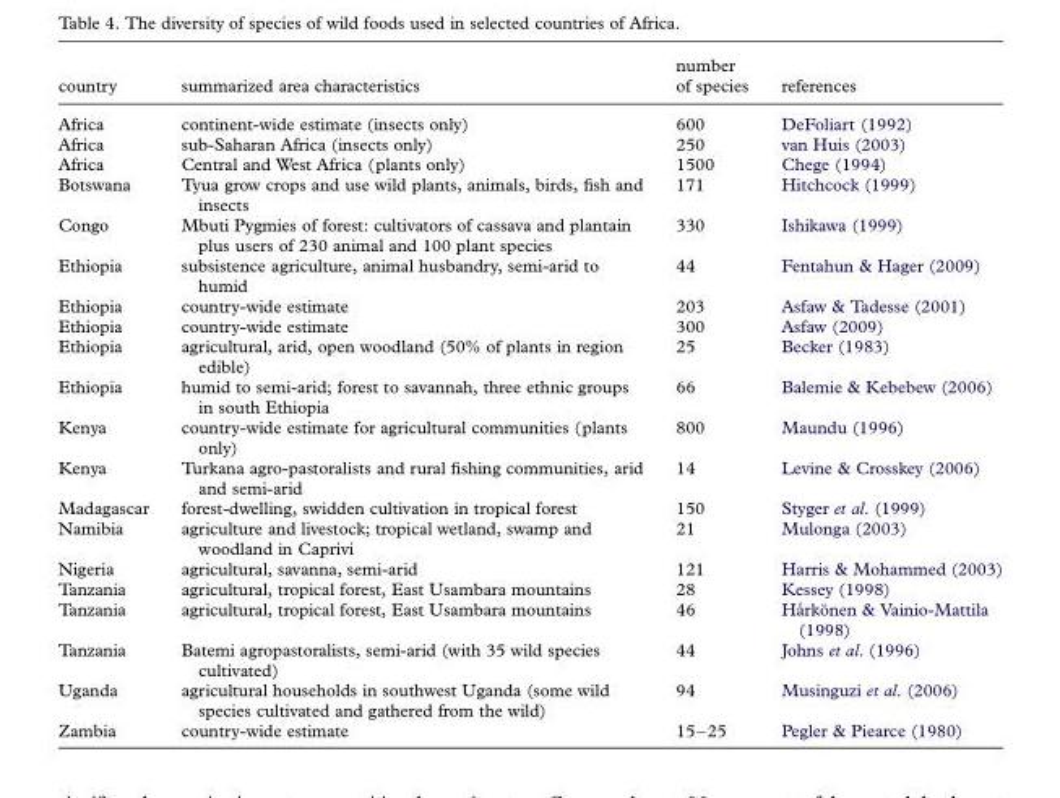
<table><thead><tr><td>country</td><td>summarized area characteristics</td><td>number of species</td><td>references</td></tr></thead><tbody><tr><td>Africa</td><td>continent-wide estimate (insects only)</td><td>600</td><td>DeFoliart (1992)</td></tr><tr><td>Africa</td><td>sub-Saharan Africa (insects only)</td><td>250</td><td>van Huis (2003)</td></tr><tr><td>Africa</td><td>Central and West Africa (plants only)</td><td>1500</td><td>Chege (1994)</td></tr><tr><td>Botswana</td><td>Tyua grow crops and use wild plants, animals, birds, fish and insects</td><td>171</td><td>Hitchcock (1999)</td></tr><tr><td>Congo</td><td>Mbuti Pygmies of forest: cultivators of cassava and plantain plus users of 230 animal and 100 plant species</td><td>330</td><td>Ishikawa (1999)</td></tr><tr><td>Ethiopia</td><td>subsistence agriculture, animal husbandry, semi-arid to humid</td><td>44</td><td>Fentahun &amp; Hager (2009)</td></tr><tr><td>Ethiopia</td><td>country-wide estimate</td><td>203</td><td>Asfaw &amp; Tadesse (2001)</td></tr><tr><td>Ethiopia</td><td>country-wide estimate</td><td>300</td><td>Asfaw (2009)</td></tr><tr><td>Ethiopia</td><td>agricultural, arid, open woodland (50% of plants in region edible)</td><td>25</td><td>Becker (1983)</td></tr><tr><td>Ethiopia</td><td>humid to semi-arid; forest to savannah, three ethnic groups in south Ethiopia</td><td>66</td><td>Balemie &amp; Kebebew (2006)</td></tr><tr><td>Kenya</td><td>country-wide estimate for agricultural communities (plants only)</td><td>800</td><td>Maundu (1996)</td></tr><tr><td>Kenya</td><td>Turkana agro-pastoralists and rural fishing communities, arid and semi-arid</td><td>14</td><td>Levine &amp; Crosskey (2006)</td></tr><tr><td>Madagascar</td><td>forest-dwelling, swidden cultivation in tropical forest</td><td>150</td><td>Styger et al. (1999)</td></tr><tr><td>Namibia</td><td>agriculture and livestock; tropical wetland, swamp and woodland in Caprivi</td><td>21</td><td>Mulonga (2003)</td></tr><tr><td>Nigeria</td><td>agricultural, savanna, semi-arid</td><td>121</td><td>Harris &amp; Mohammed (2003)</td></tr><tr><td>Tanzania</td><td>agricultural, tropical forest, East Usambara mountains</td><td>28</td><td>Kessey (1998)</td></tr><tr><td>Tanzania</td><td>agricultural, tropical forest, East Usambara mountains</td><td>46</td><td>Ha˚rko¨nen &amp; Vainio-Mattila (1998)</td></tr><tr><td>Tanzania</td><td>Batemi agropastoralists, semi-arid (with 35 wild species cultivated)</td><td>44</td><td>Johns et al. (1996)</td></tr><tr><td>Uganda</td><td>agricultural households in southwest Uganda (some wild species cultivated and gathered from the wild)</td><td>94</td><td>Musinguzi et al. (2006)</td></tr><tr><td>Zambia</td><td>country-wide estimate</td><td>15–25</td><td>Pegler &amp; Piearce (1980)</td></tr></tbody></table>